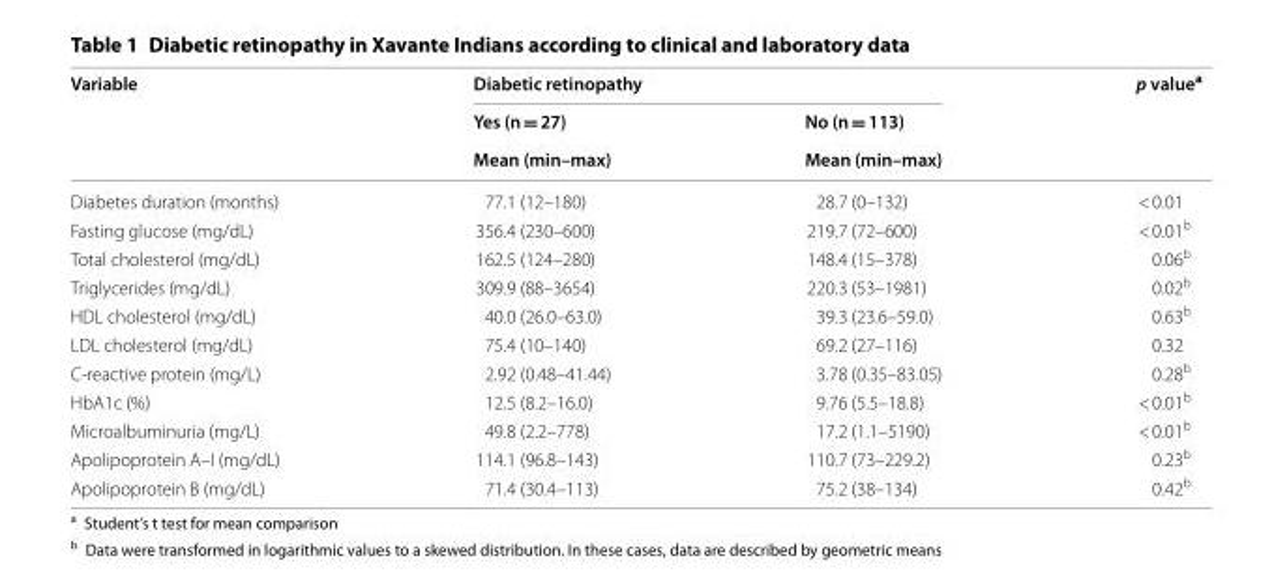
<table><thead><tr><td rowspan="3">Variable</td><td colspan="2">Diabetic retinopathy</td><td rowspan="3">p value<sup>a</sup></td></tr><tr><td rowspan="2">Yes (n = 27) Mean (min–max)</td><td rowspan="2">No (n = 113) Mean (min–max)</td></tr><tr></tr></thead><tbody><tr><td>Diabetes duration (months)</td><td>77.1 (12–180)</td><td>28.7 (0–132)</td><td>&lt; 0.01</td></tr><tr><td>Fasting glucose (mg/dL)</td><td>356.4 (230–600)</td><td>219.7 (72–600)</td><td>&lt; 0.01<sup>b</sup></td></tr><tr><td>Total cholesterol (mg/dL)</td><td>162.5 (124–280)</td><td>148.4 (15–378)</td><td>0.06<sup>b</sup></td></tr><tr><td>Triglycerides (mg/dL)</td><td>309.9 (88–3654)</td><td>220.3 (53–1981)</td><td>0.02<sup>b</sup></td></tr><tr><td>HDL cholesterol (mg/dL)</td><td>40.0 (26.0–63.0)</td><td>39.3 (23.6–59.0)</td><td>0.63<sup>b</sup></td></tr><tr><td>LDL cholesterol (mg/dL)</td><td>75.4 (10–140)</td><td>69.2 (27–116)</td><td>0.32</td></tr><tr><td>C‑reactive protein (mg/L)</td><td>2.92 (0.48–41.44)</td><td>3.78 (0.35–83.05)</td><td>0.28<sup>b</sup></td></tr><tr><td>HbA1c (%)</td><td>12.5 (8.2–16.0)</td><td>9.76 (5.5–18.8)</td><td>&lt; 0.01<sup>b</sup></td></tr><tr><td>Microalbuminuria (mg/L)</td><td>49.8 (2.2–778)</td><td>17.2 (1.1–5190)</td><td>&lt; 0.01<sup>b</sup></td></tr><tr><td>Apolipoprotein A–I (mg/dL)</td><td>114.1 (96.8–143)</td><td>110.7 (73–229.2)</td><td>0.23<sup>b</sup></td></tr><tr><td>Apolipoprotein B (mg/dL)</td><td>71.4 (30.4–113)</td><td>75.2 (38–134)</td><td>0.42<sup>b</sup></td></tr></tbody></table>